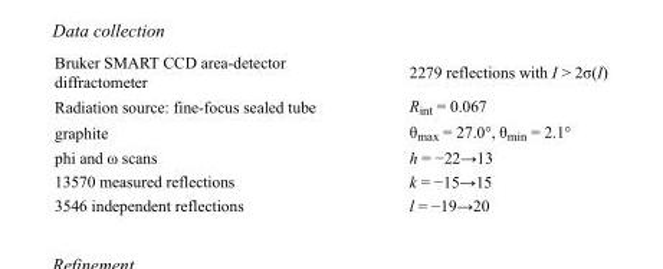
<table><tbody><tr><td>Bruker SMART CCD area-detector diffractometer</td><td>2279 reflections with I &gt; 2σ(I)</td></tr><tr><td>Radiation source: fine-focus sealed tube</td><td>R<sub>int</sub> = 0.067</td></tr><tr><td>graphite</td><td>θ<sub>max</sub> = 27.0°, θ<sub>min</sub> = 2.1°</td></tr><tr><td>phi and ω scans</td><td>h = −22→13</td></tr><tr><td>13570 measured reflections</td><td>k = −15→15</td></tr><tr><td>3546 independent reflections</td><td>l = −19→20</td></tr></tbody></table>